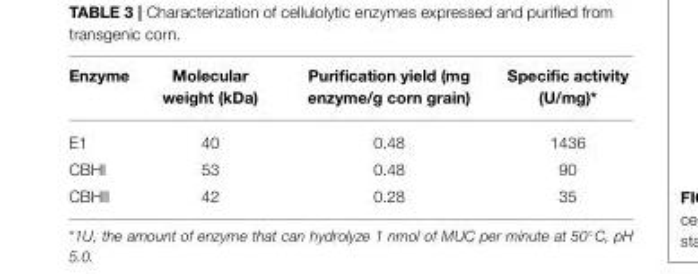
<table><thead><tr><td>Enzyme</td><td>Molecular weight (kDa)</td><td>Purification yield (mg enzyme/g corn grain)</td><td>Specific activity (U/mg)*</td></tr></thead><tbody><tr><td>E1</td><td>40</td><td>0.48</td><td>1436</td></tr><tr><td>CBHI</td><td>53</td><td>0.48</td><td>90</td></tr><tr><td>CBHII</td><td>42</td><td>0.28</td><td>35</td></tr></tbody></table>